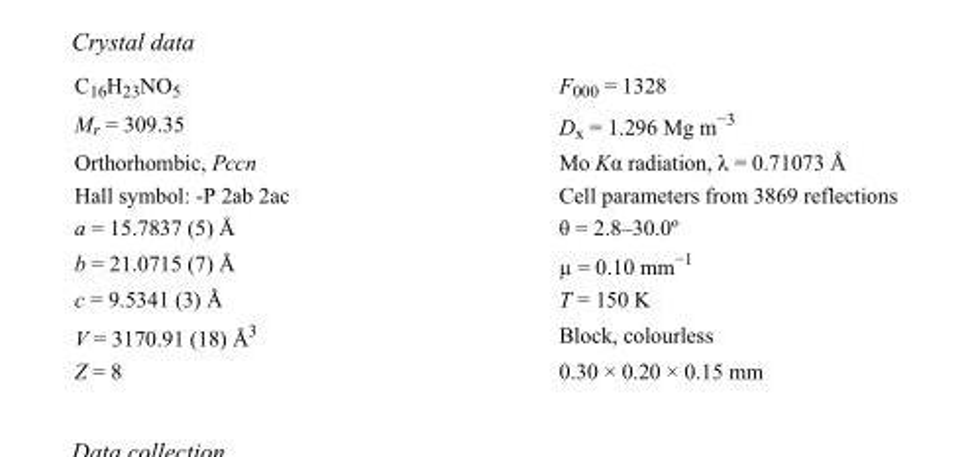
<table><tbody><tr><td>C<sub>16</sub>H<sub>23</sub>NO<sub>5</sub></td><td>F000 = 1328</td></tr><tr><td>M<sub>r</sub> = 309.35</td><td>D<sub>x</sub> = 1.296 Mg m<sup>−3</sup></td></tr><tr><td>Orthorhombic, Pccn</td><td>Mo Kα radiation, λ = 0.71073 Å</td></tr><tr><td>Hall symbol: -P 2ab 2ac</td><td>Cell parameters from 3869 reflections</td></tr><tr><td>a = 15.7837 (5) Å</td><td>θ = 2.8–30.0º</td></tr><tr><td>b = 21.0715 (7) Å</td><td>µ = 0.10 mm<sup>−1</sup></td></tr><tr><td>c = 9.5341 (3) Å</td><td>T = 150 K</td></tr><tr><td>V = 3170.91 (18) Å<sup>3</sup></td><td>Block, colourless</td></tr><tr><td>Z = 8</td><td>0.30 × 0.20 × 0.15 mm</td></tr></tbody></table>